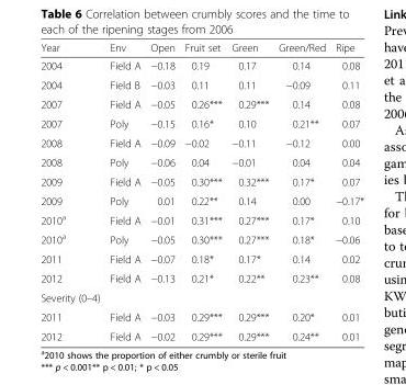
<table><thead><tr><td>Year</td><td>Env</td><td>Open</td><td>Fruit set</td><td>Green</td><td>Green/Red</td><td>Ripe</td></tr></thead><tbody><tr><td>2004</td><td>Field A</td><td>−0.18</td><td>0.19</td><td>0.17</td><td>0.14</td><td>0.08</td></tr><tr><td>2004</td><td>Field B</td><td>−0.03</td><td>0.11</td><td>0.11</td><td>−0.09</td><td>0.11</td></tr><tr><td>2007</td><td>Field A</td><td>−0.05</td><td>0.26***</td><td>0.29***</td><td>0.14</td><td>0.08</td></tr><tr><td>2007</td><td>Poly</td><td>−0.15</td><td>0.16*</td><td>0.10</td><td>0.21**</td><td>0.07</td></tr><tr><td>2008</td><td>Field A</td><td>−0.09</td><td>−0.02</td><td>−0.11</td><td>−0.12</td><td>0.00</td></tr><tr><td>2008</td><td>Poly</td><td>−0.06</td><td>0.04</td><td>−0.01</td><td>0.04</td><td>0.04</td></tr><tr><td>2009</td><td>Field A</td><td>−0.05</td><td>0.30***</td><td>0.32***</td><td>0.17*</td><td>0.07</td></tr><tr><td>2009</td><td>Poly</td><td>0.01</td><td>0.22**</td><td>0.14</td><td>0.00</td><td>−0.17*</td></tr><tr><td>2010<sup>a</sup></td><td>Field A</td><td>−0.01</td><td>0.31***</td><td>0.27***</td><td>0.17*</td><td>0.10</td></tr><tr><td>2010<sup>a</sup></td><td>Poly</td><td>−0.05</td><td>0.30***</td><td>0.27***</td><td>0.18*</td><td>−0.06</td></tr><tr><td>2011</td><td>Field A</td><td>−0.07</td><td>0.18*</td><td>0.17*</td><td>0.14</td><td>0.02</td></tr><tr><td>2012</td><td>Field A</td><td>−0.13</td><td>0.21*</td><td>0.22**</td><td>0.23**</td><td>0.08</td></tr><tr><td colspan="7">Severity (0–4)</td></tr><tr><td>2011</td><td>Field A</td><td>−0.03</td><td>0.29***</td><td>0.29***</td><td>0.20*</td><td>0.01</td></tr><tr><td>2012</td><td>Field A</td><td>−0.02</td><td>0.29***</td><td>0.29***</td><td>0.24**</td><td>0.01</td></tr></tbody></table>